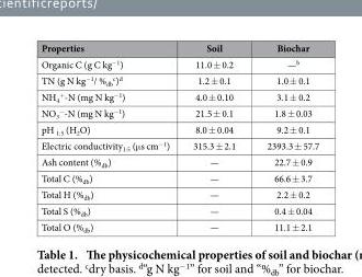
<table><thead><tr><td>Properties</td><td>Soil</td><td>Biochar</td></tr></thead><tbody><tr><td>Organic C (g C kg<sup>−1</sup>)</td><td>11.0 ± 0.2</td><td>—b</td></tr><tr><td>TN (g N kg<sup>−1</sup>/ %<sub>db</sub> <sup>c</sup>)<sup>d</sup></td><td>1.2 ± 0.1</td><td>1.0 ± 0.1</td></tr><tr><td>NH<sub>4</sub> <sup>+</sup>-N (mg N kg<sup>−1</sup>)</td><td>4.0 ± 0.10</td><td>3.1 ± 0.2</td></tr><tr><td>NO<sub>3</sub> <sup>−</sup>-N (mg N kg<sup>−1</sup>)</td><td>21.5 ± 0.1</td><td>1.8 ± 0.03</td></tr><tr><td>pH <sub>1:5</sub> (H<sub>2</sub>O)</td><td>8.0 ± 0.04</td><td>9.2 ± 0.1</td></tr><tr><td>Electric conductivity<sub>1:5</sub> (μ s cm<sup>−1</sup>)</td><td>315.3 ± 2.1</td><td>2393.3 ± 57.7</td></tr><tr><td>Ash content (%<sub>db</sub>)</td><td>—</td><td>22.7 ± 0.9</td></tr><tr><td>Total C (%<sub>db</sub>)</td><td>—</td><td>66.6 ± 3.7</td></tr><tr><td>Total H (%<sub>db</sub>)</td><td>—</td><td>2.2 ± 0.2</td></tr><tr><td>Total S (%<sub>db</sub>)</td><td>—</td><td>0.4 ± 0.04</td></tr><tr><td>Total O (%<sub>db</sub>)</td><td>—</td><td>11.1 ± 2.1</td></tr></tbody></table>